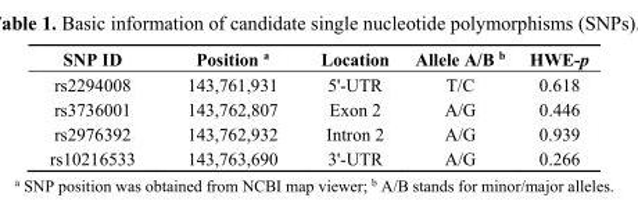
<table><thead><tr><td>SNP ID</td><td>Position <sup>a</sup></td><td>Location</td><td>Allele A/B <sup>b</sup></td><td>HWE-p</td></tr></thead><tbody><tr><td>rs2294008</td><td>143,761,931</td><td>5&#x27;-UTR</td><td>T/C</td><td>0.618</td></tr><tr><td>rs3736001</td><td>143,762,807</td><td>Exon 2</td><td>A/G</td><td>0.446</td></tr><tr><td>rs2976392</td><td>143,762,932</td><td>Intron 2</td><td>A/G</td><td>0.939</td></tr><tr><td>rs10216533</td><td>143,763,690</td><td>3&#x27;-UTR</td><td>A/G</td><td>0.266</td></tr></tbody></table>